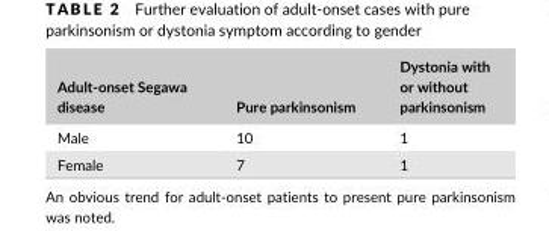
<table><thead><tr><td>Adult- onset Segawa disease</td><td>Pure parkinsonism</td><td>Dystonia with or without parkinsonism</td></tr></thead><tbody><tr><td>Male</td><td>10</td><td>1</td></tr><tr><td>Female</td><td>7</td><td>1</td></tr></tbody></table>